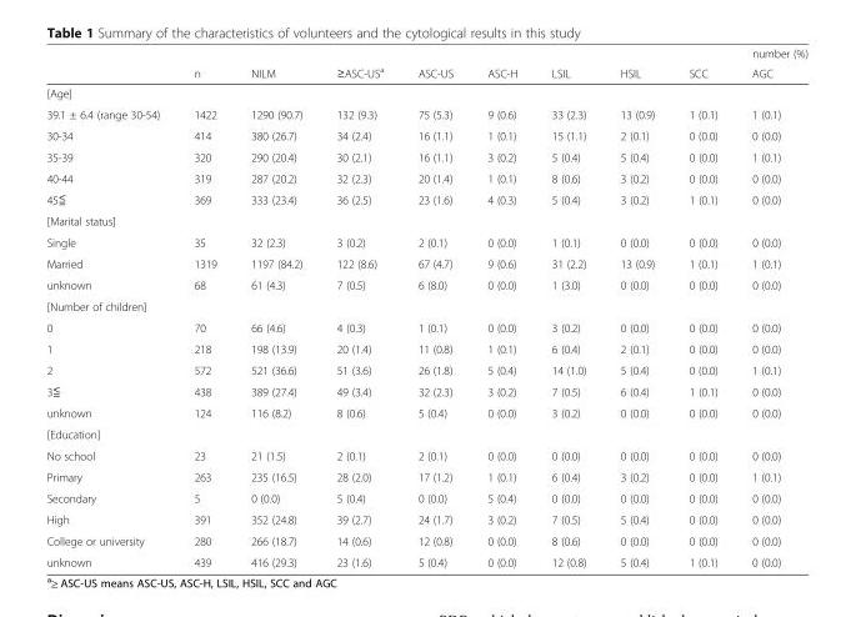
<table><thead><tr><td rowspan="2"></td><td rowspan="2">n</td><td rowspan="2">NILM</td><td rowspan="2">≥ASC-US<sup>a</sup></td><td rowspan="2">ASC-US</td><td rowspan="2">ASC-H</td><td rowspan="2">LSIL</td><td rowspan="2">HSIL</td><td rowspan="2">SCC</td><td rowspan="2">number (%) AGC</td></tr><tr></tr></thead><tbody><tr><td colspan="10">[Age]</td></tr><tr><td>39.1 ± 6.4 (range 30-54)</td><td>1422</td><td>1290 (90.7)</td><td>132 (9.3)</td><td>75 (5.3)</td><td>9 (0.6)</td><td>33 (2.3)</td><td>13 (0.9)</td><td>1 (0.1)</td><td>1 (0.1)</td></tr><tr><td>30-34</td><td>414</td><td>380 (26.7)</td><td>34 (2.4)</td><td>16 (1.1)</td><td>1 (0.1)</td><td>15 (1.1)</td><td>2 (0.1)</td><td>0 (0.0)</td><td>0 (0.0)</td></tr><tr><td>35-39</td><td>320</td><td>290 (20.4)</td><td>30 (2.1)</td><td>16 (1.1)</td><td>3 (0.2)</td><td>5 (0.4)</td><td>5 (0.4)</td><td>0 (0.0)</td><td>1 (0.1)</td></tr><tr><td>40-44</td><td>319</td><td>287 (20.2)</td><td>32 (2.3)</td><td>20 (1.4)</td><td>1 (0.1)</td><td>8 (0.6)</td><td>3 (0.2)</td><td>0 (0.0)</td><td>0 (0.0)</td></tr><tr><td>45≦</td><td>369</td><td>333 (23.4)</td><td>36 (2.5)</td><td>23 (1.6)</td><td>4 (0.3)</td><td>5 (0.4)</td><td>3 (0.2)</td><td>1 (0.1)</td><td>0 (0.0)</td></tr><tr><td colspan="10">[Marital status]</td></tr><tr><td>Single</td><td>35</td><td>32 (2.3)</td><td>3 (0.2)</td><td>2 (0.1)</td><td>0 (0.0)</td><td>1 (0.1)</td><td>0 (0.0)</td><td>0 (0.0)</td><td>0 (0.0)</td></tr><tr><td>Married</td><td>1319</td><td>1197 (84.2)</td><td>122 (8.6)</td><td>67 (4.7)</td><td>9 (0.6)</td><td>31 (2.2)</td><td>13 (0.9)</td><td>1 (0.1)</td><td>1 (0.1)</td></tr><tr><td>unknown</td><td>68</td><td>61 (4.3)</td><td>7 (0.5)</td><td>6 (8.0)</td><td>0 (0.0)</td><td>1 (3.0)</td><td>0 (0.0)</td><td>0 (0.0)</td><td>0 (0.0)</td></tr><tr><td colspan="10">[Number of children]</td></tr><tr><td>0</td><td>70</td><td>66 (4.6)</td><td>4 (0.3)</td><td>1 (0.1)</td><td>0 (0.0)</td><td>3 (0.2)</td><td>0 (0.0)</td><td>0 (0.0)</td><td>0 (0.0)</td></tr><tr><td>1</td><td>218</td><td>198 (13.9)</td><td>20 (1.4)</td><td>11 (0.8)</td><td>1 (0.1)</td><td>6 (0.4)</td><td>2 (0.1)</td><td>0 (0.0)</td><td>0 (0.0)</td></tr><tr><td>2</td><td>572</td><td>521 (36.6)</td><td>51 (3.6)</td><td>26 (1.8)</td><td>5 (0.4)</td><td>14 (1.0)</td><td>5 (0.4)</td><td>0 (0.0)</td><td>1 (0.1)</td></tr><tr><td>3≦</td><td>438</td><td>389 (27.4)</td><td>49 (3.4)</td><td>32 (2.3)</td><td>3 (0.2)</td><td>7 (0.5)</td><td>6 (0.4)</td><td>1 (0.1)</td><td>0 (0.0)</td></tr><tr><td>unknown</td><td>124</td><td>116 (8.2)</td><td>8 (0.6)</td><td>5 (0.4)</td><td>0 (0.0)</td><td>3 (0.2)</td><td>0 (0.0)</td><td>0 (0.0)</td><td>0 (0.0)</td></tr><tr><td colspan="10">[Education]</td></tr><tr><td>No school</td><td>23</td><td>21 (1.5)</td><td>2 (0.1)</td><td>2 (0.1)</td><td>0 (0.0)</td><td>0 (0.0)</td><td>0 (0.0)</td><td>0 (0.0)</td><td>0 (0.0)</td></tr><tr><td>Primary</td><td>263</td><td>235 (16.5)</td><td>28 (2.0)</td><td>17 (1.2)</td><td>1 (0.1)</td><td>6 (0.4)</td><td>3 (0.2)</td><td>0 (0.0)</td><td>1 (0.1)</td></tr><tr><td>Secondary</td><td>5</td><td>0 (0.0)</td><td>5 (0.4)</td><td>0 (0.0)</td><td>5 (0.4)</td><td>0 (0.0)</td><td>0 (0.0)</td><td>0 (0.0)</td><td>0 (0.0)</td></tr><tr><td>High</td><td>391</td><td>352 (24.8)</td><td>39 (2.7)</td><td>24 (1.7)</td><td>3 (0.2)</td><td>7 (0.5)</td><td>5 (0.4)</td><td>0 (0.0)</td><td>0 (0.0)</td></tr><tr><td>College or university</td><td>280</td><td>266 (18.7)</td><td>14 (0.6)</td><td>12 (0.8)</td><td>0 (0.0)</td><td>8 (0.6)</td><td>0 (0.0)</td><td>0 (0.0)</td><td>0 (0.0)</td></tr><tr><td>unknown</td><td>439</td><td>416 (29.3)</td><td>23 (1.6)</td><td>5 (0.4)</td><td>0 (0.0)</td><td>12 (0.8)</td><td>5 (0.4)</td><td>1 (0.1)</td><td>0 (0.0)</td></tr></tbody></table>